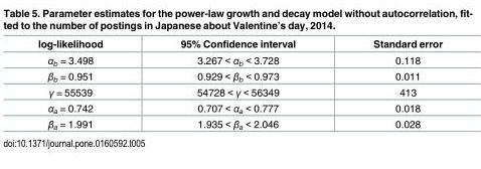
<table><thead><tr><td>log-likelihood</td><td>95% Confidence interval</td><td>Standard error</td></tr></thead><tbody><tr><td>α<sub>b</sub> = 3.498</td><td>3.267 &lt; α<sub>b</sub> &lt; 3.728</td><td>0.118</td></tr><tr><td>β<sub>b</sub> = 0.951</td><td>0.929 &lt; β<sub>b</sub> &lt; 0.973</td><td>0.011</td></tr><tr><td>γ = 55539</td><td>54728 &lt; γ &lt; 56349</td><td>413</td></tr><tr><td>α<sub>a</sub> = 0.742</td><td>0.707 &lt; α<sub>a</sub> &lt; 0.777</td><td>0.018</td></tr><tr><td>β<sub>a</sub> = 1.991</td><td>1.935 &lt; β<sub>a</sub> &lt; 2.046</td><td>0.028</td></tr></tbody></table>